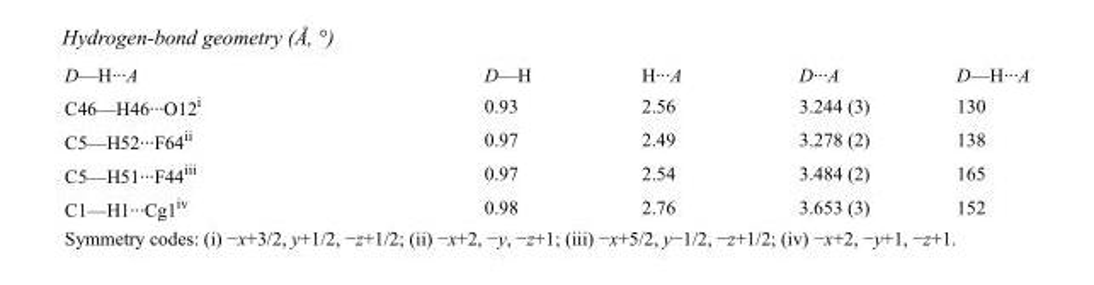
<table><tbody><tr><td>D—H···A</td><td>D—H</td><td>H···A</td><td>D···A</td><td>D—H···A</td></tr><tr><td>C46—H46···O12<sup>i</sup></td><td>0.93</td><td>2.56</td><td>3.244 (3)</td><td>130</td></tr><tr><td>C5—H52···F64<sup>ii</sup></td><td>0.97</td><td>2.49</td><td>3.278 (2)</td><td>138</td></tr><tr><td>C5—H51···F44<sup>iii</sup></td><td>0.97</td><td>2.54</td><td>3.484 (2)</td><td>165</td></tr><tr><td>C1—H1···Cg1<sup>iv</sup></td><td>0.98</td><td>2.76</td><td>3.653 (3)</td><td>152</td></tr></tbody></table>